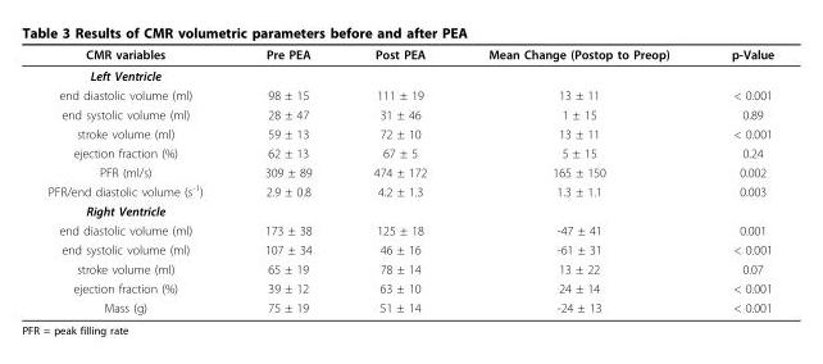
<table><thead><tr><td>CMR variables</td><td>Pre PEA</td><td>Post PEA</td><td>Mean Change (Postop to Preop)</td><td>p-Value</td></tr></thead><tbody><tr><td colspan="5">Left Ventricle</td></tr><tr><td>end diastolic volume (ml)</td><td>98 ± 15</td><td>111 ± 19</td><td>13 ± 11</td><td>&lt; 0.001</td></tr><tr><td>end systolic volume (ml)</td><td>28 ± 47</td><td>31 ± 46</td><td>1 ± 15</td><td>0.89</td></tr><tr><td>stroke volume (ml)</td><td>59 ± 13</td><td>72 ± 10</td><td>13 ± 11</td><td>&lt; 0.001</td></tr><tr><td>ejection fraction (%)</td><td>62 ± 13</td><td>67 ± 5</td><td>5 ± 15</td><td>0.24</td></tr><tr><td>PFR (ml/s)</td><td>309 ± 89</td><td>474 ± 172</td><td>165 ± 150</td><td>0.002</td></tr><tr><td>PFR/end diastolic volume (s<sup>-1</sup>)</td><td>2.9 ± 0.8</td><td>4.2 ± 1.3</td><td>1.3 ± 1.1</td><td>0.003</td></tr><tr><td colspan="5">Right Ventricle</td></tr><tr><td>end diastolic volume (ml)</td><td>173 ± 38</td><td>125 ± 18</td><td>-47 ± 41</td><td>0.001</td></tr><tr><td>end systolic volume (ml)</td><td>107 ± 34</td><td>46 ± 16</td><td>-61 ± 31</td><td>&lt; 0.001</td></tr><tr><td>stroke volume (ml)</td><td>65 ± 19</td><td>78 ± 14</td><td>13 ± 22</td><td>0.07</td></tr><tr><td>ejection fraction (%)</td><td>39 ± 12</td><td>63 ± 10</td><td>24 ± 14</td><td>&lt; 0.001</td></tr><tr><td>Mass (g)</td><td>75 ± 19</td><td>51 ± 14</td><td>-24 ± 13</td><td>&lt; 0.001</td></tr></tbody></table>